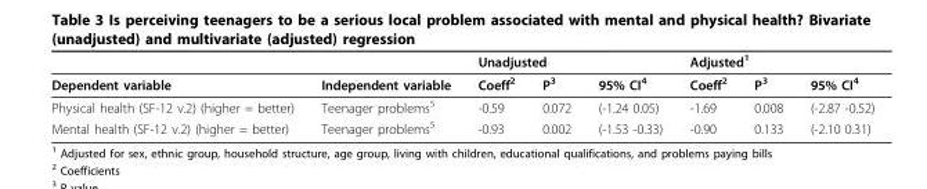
<table><thead><tr><td rowspan="2">Dependent variable</td><td rowspan="2">Independent variable</td><td colspan="3">Unadjusted</td><td colspan="3">Adjusted<sup>1</sup></td></tr><tr><td>Coeff<sup>2</sup></td><td>P<sup>3</sup></td><td>95% CI<sup>4</sup></td><td>Coeff<sup>2</sup></td><td>P<sup>3</sup></td><td>95% CI<sup>4</sup></td></tr></thead><tbody><tr><td>Physical health (SF-12 v.2) (higher = better)</td><td>Teenager problems<sup>5</sup></td><td>-0.59</td><td>0.072</td><td>(-1.24 0.05)</td><td>-1.69</td><td>0.008</td><td>(-2.87 -0.52)</td></tr><tr><td>Mental health (SF-12 v.2) (higher = better)</td><td>Teenager problems<sup>5</sup></td><td>-0.93</td><td>0.002</td><td>(-1.53 -0.33)</td><td>-0.90</td><td>0.133</td><td>(-2.10 0.31)</td></tr></tbody></table>